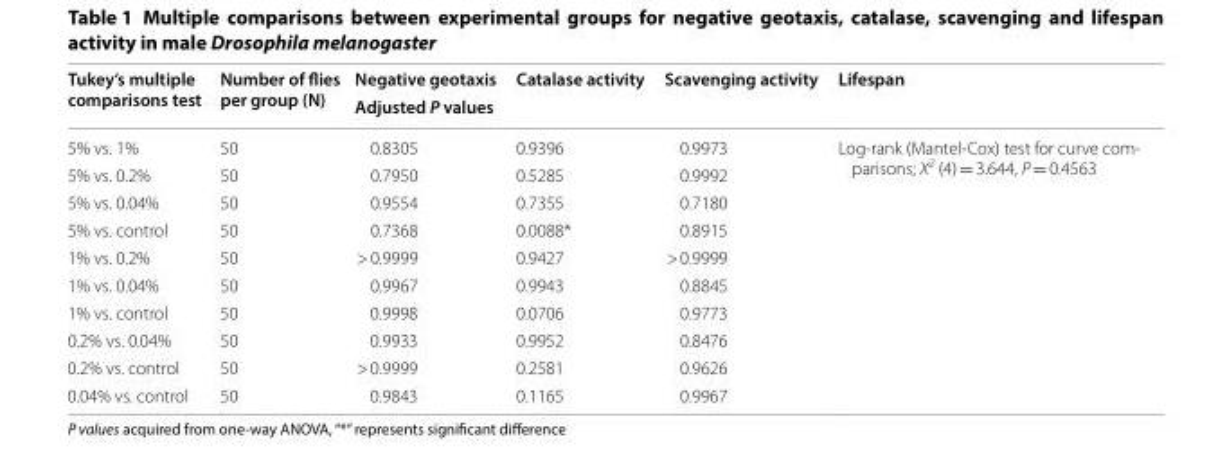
<table><thead><tr><td rowspan="2">Tukey’s multiple comparisons test</td><td rowspan="2">Number of flies per group (N)</td><td>Negative geotaxis</td><td>Catalase activity</td><td>Scavenging activity</td><td rowspan="2">Lifespan</td></tr><tr><td colspan="3">Adjusted P values</td></tr></thead><tbody><tr><td>5% vs. 1%</td><td>50</td><td>0.8305</td><td>0.9396</td><td>0.9973</td><td rowspan="10">Log-rank (Mantel-Cox) test for curve com- parisons; X2 (4) = 3.644, P = 0.4563</td></tr><tr><td>5% vs. 0.2%</td><td>50</td><td>0.7950</td><td>0.5285</td><td>0.9992</td></tr><tr><td>5% vs. 0.04%</td><td>50</td><td>0.9554</td><td>0.7355</td><td>0.7180</td></tr><tr><td>5% vs. control</td><td>50</td><td>0.7368</td><td>0.0088*</td><td>0.8915</td></tr><tr><td>1% vs. 0.2%</td><td>50</td><td>&gt; 0.9999</td><td>0.9427</td><td>&gt; 0.9999</td></tr><tr><td>1% vs. 0.04%</td><td>50</td><td>0.9967</td><td>0.9943</td><td>0.8845</td></tr><tr><td>1% vs. control</td><td>50</td><td>0.9998</td><td>0.0706</td><td>0.9773</td></tr><tr><td>0.2% vs. 0.04%</td><td>50</td><td>0.9933</td><td>0.9952</td><td>0.8476</td></tr><tr><td>0.2% vs. control</td><td>50</td><td>&gt; 0.9999</td><td>0.2581</td><td>0.9626</td></tr><tr><td>0.04% vs. control</td><td>50</td><td>0.9843</td><td>0.1165</td><td>0.9967</td></tr></tbody></table>